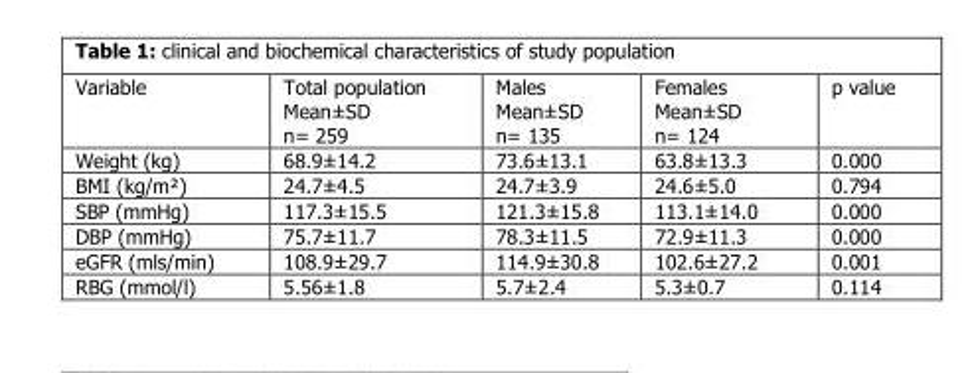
<table><thead><tr><td>Variable</td><td>Total population Mean±SD n= 259</td><td>Males Mean±SD n= 135</td><td>Females Mean±SD n= 124</td><td>p value</td></tr></thead><tbody><tr><td>Weight (kg)</td><td>68.9±14.2</td><td>73.6±13.1</td><td>63.8±13.3</td><td>0.000</td></tr><tr><td>BMI (kg/m²)</td><td>24.7±4.5</td><td>24.7±3.9</td><td>24.6±5.0</td><td>0.794</td></tr><tr><td>SBP (mmHg)</td><td>117.3±15.5</td><td>121.3±15.8</td><td>113.1±14.0</td><td>0.000</td></tr><tr><td>DBP (mmHg)</td><td>75.7±11.7</td><td>78.3±11.5</td><td>72.9±11.3</td><td>0.000</td></tr><tr><td>eGFR (mls/min)</td><td>108.9±29.7</td><td>114.9±30.8</td><td>102.6±27.2</td><td>0.001</td></tr><tr><td>RBG (mmol/l)</td><td>5.56±1.8</td><td>5.7±2.4</td><td>5.3±0.7</td><td>0.114</td></tr></tbody></table>